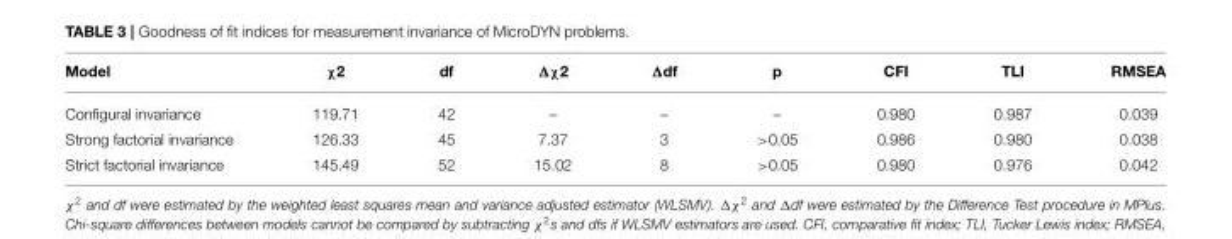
<table><thead><tr><td>Model</td><td>χ2</td><td>df</td><td>Δχ2</td><td>Δdf</td><td>p</td><td>CFI</td><td>TLI</td><td>RMSEA</td></tr></thead><tbody><tr><td>Configural invariance</td><td>119.71</td><td>42</td><td>–</td><td>–</td><td>–</td><td>0.980</td><td>0.987</td><td>0.039</td></tr><tr><td>Strong factorial invariance</td><td>126.33</td><td>45</td><td>7.37</td><td>3</td><td>&gt;0.05</td><td>0.986</td><td>0.980</td><td>0.038</td></tr><tr><td>Strict factorial invariance</td><td>145.49</td><td>52</td><td>15.02</td><td>8</td><td>&gt;0.05</td><td>0.980</td><td>0.976</td><td>0.042</td></tr></tbody></table>